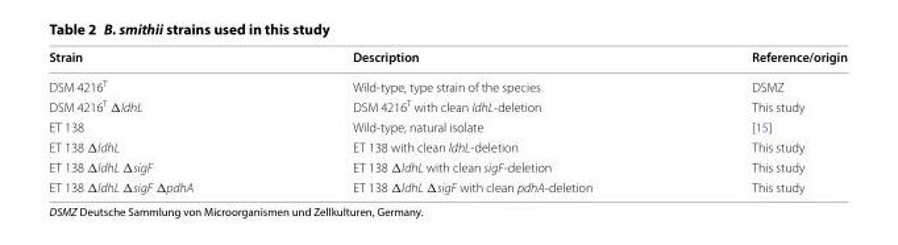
<table><thead><tr><td>Strain</td><td>Description</td><td>Reference/origin</td></tr></thead><tbody><tr><td>DSM 4216<sup>T</sup></td><td>Wild-type, type strain of the species</td><td>DSMZ</td></tr><tr><td>DSM 4216<sup>T</sup> ΔldhL</td><td>DSM 4216<sup>T</sup> with clean ldhL-deletion</td><td>This study</td></tr><tr><td>ET 138</td><td>Wild-type, natural isolate</td><td>[15]</td></tr><tr><td>ET 138 ΔldhL</td><td>ET 138 with clean ldhL-deletion</td><td>This study</td></tr><tr><td>ET 138 ΔldhL ΔsigF</td><td>ET 138 ΔldhL with clean sigF-deletion</td><td>This study</td></tr><tr><td>ET 138 ΔldhL ΔsigF ΔpdhA</td><td>ET 138 ΔldhL ΔsigF with clean pdhA-deletion</td><td>This study</td></tr></tbody></table>